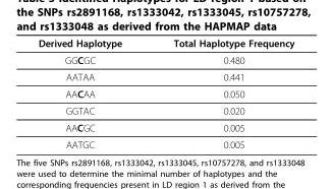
<table><thead><tr><td>Derived Haplotype</td><td>Total Haplotype Frequency</td></tr></thead><tbody><tr><td>GGCGC</td><td>0.480</td></tr><tr><td>AATAA</td><td>0.441</td></tr><tr><td>AACAA</td><td>0.050</td></tr><tr><td>GGTAC</td><td>0.020</td></tr><tr><td>AACGC</td><td>0.005</td></tr><tr><td>AATGC</td><td>0.005</td></tr></tbody></table>